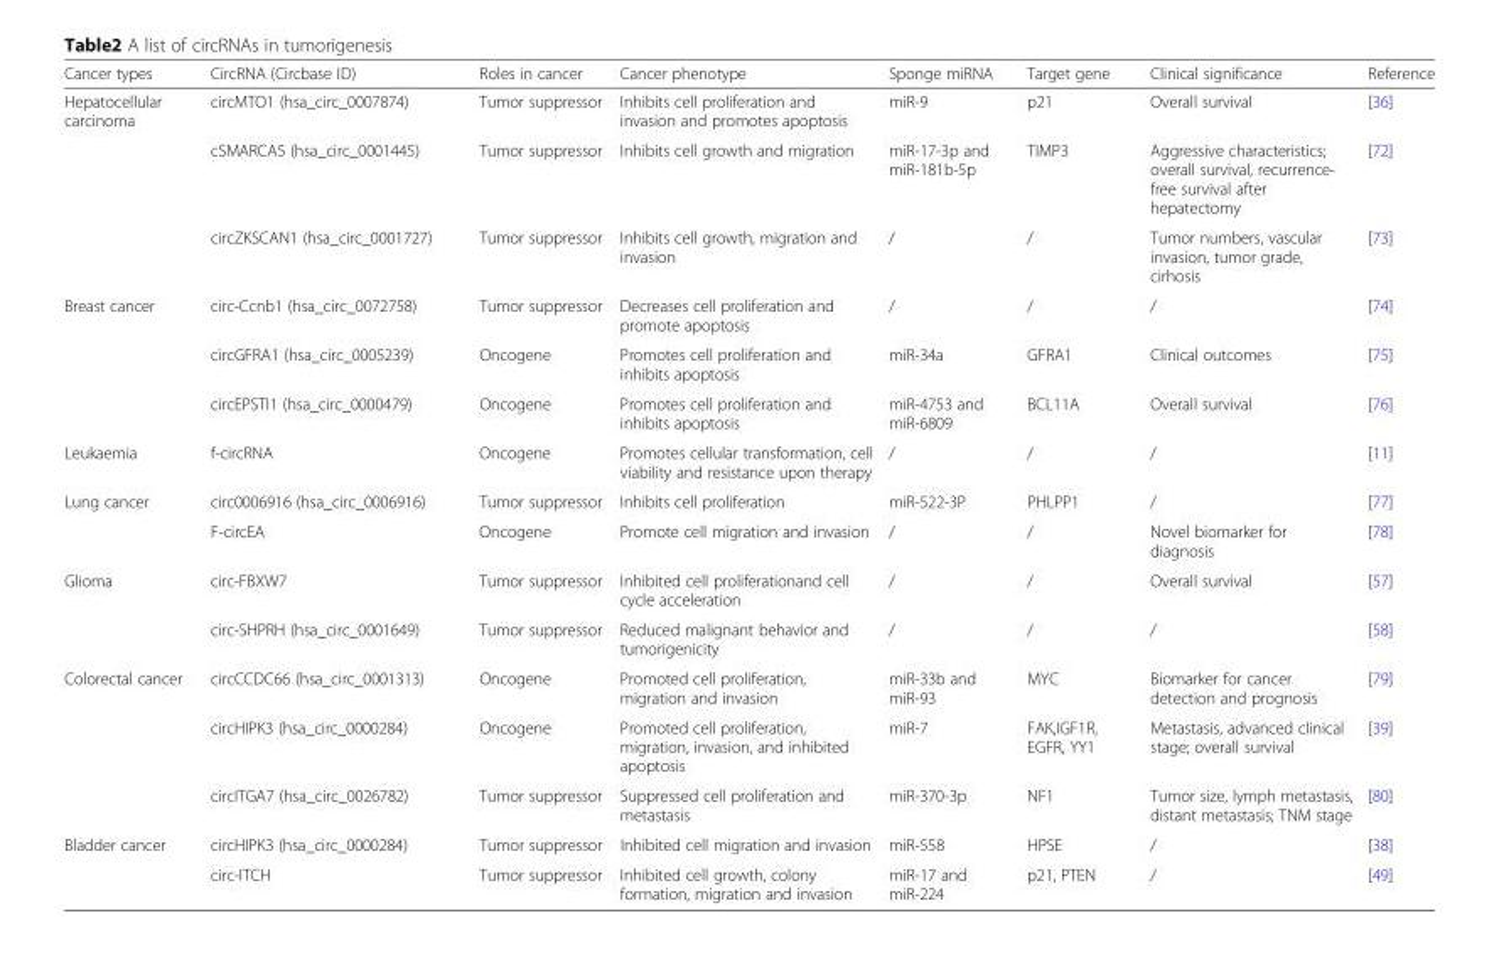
<table><thead><tr><td>Cancer types</td><td>CircRNA (Circbase ID)</td><td>Roles in cancer</td><td>Cancer phenotype</td><td>Sponge miRNA</td><td>Target gene</td><td>Clinical significance</td><td>Reference</td></tr></thead><tbody><tr><td rowspan="3">Hepatocellular carcinoma</td><td>circMTO1 (hsa_circ_0007874)</td><td>Tumor suppressor</td><td>Inhibits cell proliferation and invasion and promotes apoptosis</td><td>miR-9</td><td>p21</td><td>Overall survival</td><td>[36]</td></tr><tr><td>cSMARCA5 (hsa_circ_0001445)</td><td>Tumor suppressor</td><td>Inhibits cell growth and migration</td><td>miR-17-3p and miR-181b-5p</td><td>TIMP3</td><td>Aggressive characteristics; overall survival, recurrence- free survival after hepatectomy</td><td>[72]</td></tr><tr><td>circZKSCAN1 (hsa_circ_0001727)</td><td>Tumor suppressor</td><td>Inhibits cell growth, migration and invasion</td><td>/</td><td>/</td><td>Tumor numbers, vascular invasion, tumor grade, cirhosis</td><td>[73]</td></tr><tr><td rowspan="3">Breast cancer</td><td>circ-Ccnb1 (hsa_circ_0072758)</td><td>Tumor suppressor</td><td>Decreases cell proliferation and promote apoptosis</td><td>/</td><td>/</td><td>/</td><td>[74]</td></tr><tr><td>circGFRA1 (hsa_circ_0005239)</td><td>Oncogene</td><td>Promotes cell proliferation and inhibits apoptosis</td><td>miR-34a</td><td>GFRA1</td><td>Clinical outcomes</td><td>[75]</td></tr><tr><td>circEPSTI1 (hsa_circ_0000479)</td><td>Oncogene</td><td>Promotes cell proliferation and inhibits apoptosis</td><td>miR-4753 and miR-6809</td><td>BCL11A</td><td>Overall survival</td><td>[76]</td></tr><tr><td>Leukaemia</td><td>f-circRNA</td><td>Oncogene</td><td>Promotes cellular transformation, cell viability and resistance upon therapy</td><td>/</td><td>/</td><td>/</td><td>[11]</td></tr><tr><td rowspan="2">Lung cancer</td><td>circ0006916 (hsa_circ_0006916)</td><td>Tumor suppressor</td><td>Inhibits cell proliferation</td><td>miR-522-3P</td><td>PHLPP1</td><td>/</td><td>[77]</td></tr><tr><td>F-circEA</td><td>Oncogene</td><td>Promote cell migration and invasion</td><td>/</td><td>/</td><td>Novel biomarker for diagnosis</td><td>[78]</td></tr><tr><td rowspan="2">Glioma</td><td>circ-FBXW7</td><td>Tumor suppressor</td><td>Inhibited cell proliferationand cell cycle acceleration</td><td>/</td><td>/</td><td>Overall survival</td><td>[57]</td></tr><tr><td>circ-SHPRH (hsa_circ_0001649)</td><td>Tumor suppressor</td><td>Reduced malignant behavior and tumorigenicity</td><td>/</td><td>/</td><td>/</td><td>[58]</td></tr><tr><td rowspan="3">Colorectal cancer</td><td>circCCDC66 (hsa_circ_0001313)</td><td>Oncogene</td><td>Promoted cell proliferation, migration and invasion</td><td>miR-33b and miR-93</td><td>MYC</td><td>Biomarker for cancer detection and prognosis</td><td>[79]</td></tr><tr><td>circHIPK3 (hsa_circ_0000284)</td><td>Oncogene</td><td>Promoted cell proliferation, migration, invasion, and inhibited apoptosis</td><td>miR-7</td><td>FAK,IGF1R, EGFR, YY1</td><td>Metastasis, advanced clinical stage; overall survival</td><td>[39]</td></tr><tr><td>circITGA7 (hsa_circ_0026782)</td><td>Tumor suppressor</td><td>Suppressed cell proliferation and metastasis</td><td>miR-370-3p</td><td>NF1</td><td>Tumor size, lymph metastasis, distant metastasis; TNM stage</td><td>[80]</td></tr><tr><td rowspan="2">Bladder cancer</td><td>circHIPK3 (hsa_circ_0000284)</td><td>Tumor suppressor</td><td>Inhibited cell migration and invasion</td><td>miR-558</td><td>HPSE</td><td>/</td><td>[38]</td></tr><tr><td>circ-ITCH</td><td>Tumor suppressor</td><td>Inhibited cell growth, colony formation, migration and invasion</td><td>miR-17 and miR-224</td><td>p21, PTEN</td><td>/</td><td>[49]</td></tr></tbody></table>